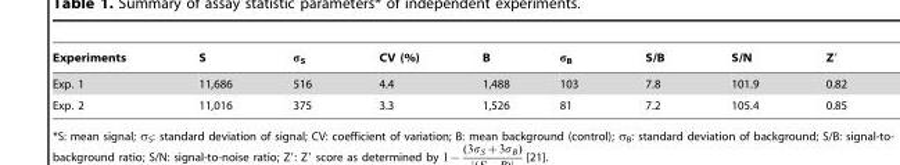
<table><thead><tr><td>Experiments</td><td>S</td><td>σ<sub>S</sub></td><td>CV (%)</td><td>B</td><td>σ<sub>B</sub></td><td>S/B</td><td>S/N</td><td>Z′</td></tr></thead><tbody><tr><td>Exp. 1</td><td>11,686</td><td>516</td><td>4.4</td><td>1,488</td><td>103</td><td>7.8</td><td>101.9</td><td>0.82</td></tr><tr><td>Exp. 2</td><td>11,016</td><td>375</td><td>3.3</td><td>1,526</td><td>81</td><td>7.2</td><td>105.4</td><td>0.85</td></tr></tbody></table>